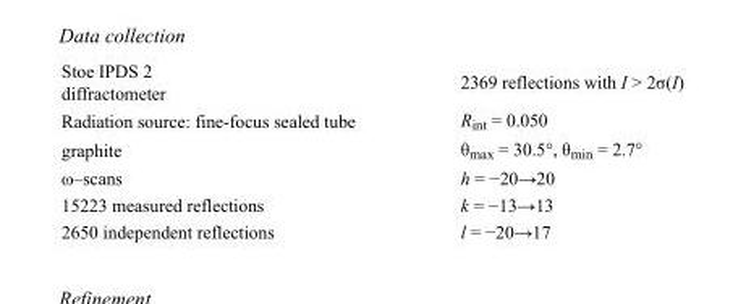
<table><tbody><tr><td>Stoe IPDS 2 diffractometer</td><td>2369 reflections with I &gt; 2σ(I)</td></tr><tr><td>Radiation source: fine-focus sealed tube</td><td>R<sub>int</sub> = 0.050</td></tr><tr><td>graphite</td><td>θ<sub>max</sub> = 30.5°, θ<sub>min</sub> = 2.7°</td></tr><tr><td>ω–scans</td><td>h = −20→20</td></tr><tr><td>15223 measured reflections</td><td>k = −13→13</td></tr><tr><td>2650 independent reflections</td><td>l = −20→17</td></tr></tbody></table>